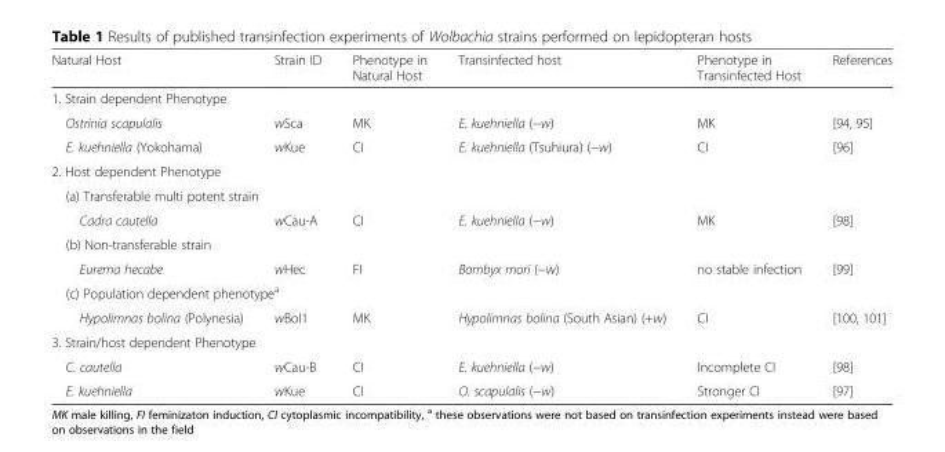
<table><thead><tr><td>Natural Host</td><td>Strain ID</td><td>Phenotype in Natural Host</td><td>Transinfected host</td><td>Phenotype in Transinfected Host</td><td>References</td></tr></thead><tbody><tr><td colspan="6">1. Strain dependent Phenotype</td></tr><tr><td>Ostrinia scapulalis</td><td>wSca</td><td>MK</td><td>E. kuehniella (−w)</td><td>MK</td><td>[94, 95]</td></tr><tr><td>E. kuehniella (Yokohama)</td><td>wKue</td><td>CI</td><td>E. kuehniella (Tsuhiura) (−w)</td><td>CI</td><td>[96]</td></tr><tr><td colspan="6">2. Host dependent Phenotype</td></tr><tr><td colspan="6">(a) Transferable multi potent strain</td></tr><tr><td>Cadra cautella</td><td>wCau-A</td><td>CI</td><td>E. kuehniella (−w)</td><td>MK</td><td>[98]</td></tr><tr><td colspan="6">(b) Non-transferable strain</td></tr><tr><td>Eurema hecabe</td><td>wHec</td><td>FI</td><td>Bombyx mori (−w)</td><td>no stable infection</td><td>[99]</td></tr><tr><td colspan="6">(c) Population dependent phenotype<sup>a</sup></td></tr><tr><td>Hypolimnas bolina (Polynesia)</td><td>wBol1</td><td>MK</td><td>Hypolimnas bolina (South Asian) (+w)</td><td>CI</td><td>[100, 101]</td></tr><tr><td colspan="6">3. Strain/host dependent Phenotype</td></tr><tr><td>C. cautella</td><td>wCau-B</td><td>CI</td><td>E. kuehniella (−w)</td><td>Incomplete CI</td><td>[98]</td></tr><tr><td>E. kuehniella</td><td>wKue</td><td>CI</td><td>O. scapulalis (−w)</td><td>Stronger CI</td><td>[97]</td></tr></tbody></table>